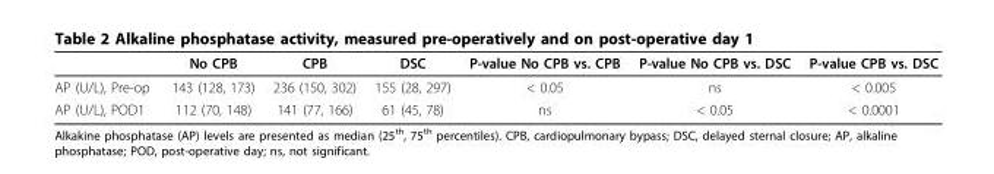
<table><thead><tr><td></td><td>No CPB</td><td>CPB</td><td>DSC</td><td>P-value No CPB vs. CPB</td><td>P-value No CPB vs. DSC</td><td>P-value CPB vs. DSC</td></tr></thead><tbody><tr><td>AP (U/L), Pre-op</td><td>143 (128, 173)</td><td>236 (150, 302)</td><td>155 (28, 297)</td><td>&lt; 0.05</td><td>ns</td><td>&lt; 0.005</td></tr><tr><td>AP (U/L), POD1</td><td>112 (70, 148)</td><td>141 (77, 166)</td><td>61 (45, 78)</td><td>ns</td><td>&lt; 0.05</td><td>&lt; 0.0001</td></tr></tbody></table>